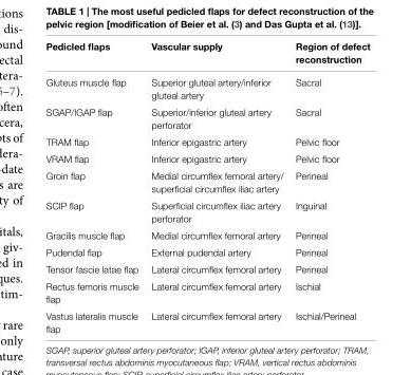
<table><thead><tr><td>Pedicled flaps</td><td>vascular supply</td><td>Region of defect reconstruction</td></tr></thead><tbody><tr><td>Gluteus muscle flap</td><td>Superior gluteal artery/inferior gluteal artery</td><td>Sacral</td></tr><tr><td>SGAP/IGAP flap</td><td>Superior/inferior gluteal artery perforator</td><td>Sacral</td></tr><tr><td>TRAM flap</td><td>Inferior epigastric artery</td><td>Pelvic floor</td></tr><tr><td>VRAM flap</td><td>Inferior epigastric artery</td><td>Pelvic floor</td></tr><tr><td>Groin flap</td><td>Medial circumflex femoral artery/ superficial circumflex iliac artery</td><td>Perineal</td></tr><tr><td>SCIP flap</td><td>Superficial circumflex iliac artery perforator</td><td>Inguinal</td></tr><tr><td>Gracilis muscle flap</td><td>Medial circumflex femoral artery</td><td>Perineal</td></tr><tr><td>Pudendal flap</td><td>External pudendal artery</td><td>Perineal</td></tr><tr><td>Tensor fascie latae flap</td><td>Lateral circumflex femoral artery</td><td>Perineal</td></tr><tr><td>Rectus femoris muscle flap</td><td>Lateral circumflex femoral artery</td><td>Ischial</td></tr><tr><td>Vastus lateralis muscle flap</td><td>Lateral circumflex femoral artery</td><td>Ischial/Perineal</td></tr></tbody></table>